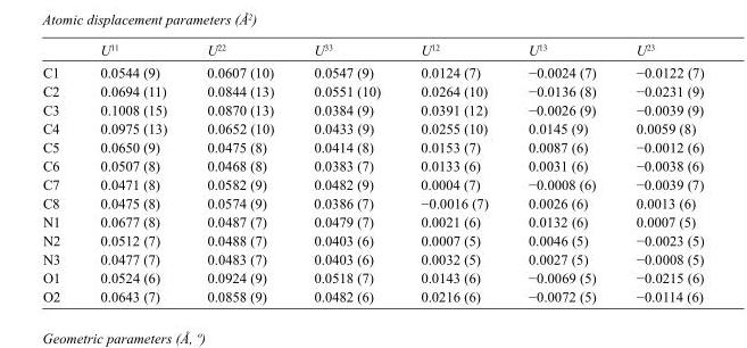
<table><thead><tr><td></td><td>U<sup>11</sup></td><td>U<sup>22</sup></td><td>U<sup>33</sup></td><td>U<sup>12</sup></td><td>U<sup>13</sup></td><td>U<sup>23</sup></td></tr></thead><tbody><tr><td>C1</td><td>0.0544 (9)</td><td>0.0607 (10)</td><td>0.0547 (9)</td><td>0.0124 (7)</td><td>−0.0024 (7)</td><td>−0.0122 (7)</td></tr><tr><td>C2</td><td>0.0694 (11)</td><td>0.0844 (13)</td><td>0.0551 (10)</td><td>0.0264 (10)</td><td>−0.0136 (8)</td><td>−0.0231 (9)</td></tr><tr><td>C3</td><td>0.1008 (15)</td><td>0.0870 (13)</td><td>0.0384 (9)</td><td>0.0391 (12)</td><td>−0.0026 (9)</td><td>−0.0039 (9)</td></tr><tr><td>C4</td><td>0.0975 (13)</td><td>0.0652 (10)</td><td>0.0433 (9)</td><td>0.0255 (10)</td><td>0.0145 (9)</td><td>0.0059 (8)</td></tr><tr><td>C5</td><td>0.0650 (9)</td><td>0.0475 (8)</td><td>0.0414 (8)</td><td>0.0153 (7)</td><td>0.0087 (6)</td><td>−0.0012 (6)</td></tr><tr><td>C6</td><td>0.0507 (8)</td><td>0.0468 (8)</td><td>0.0383 (7)</td><td>0.0133 (6)</td><td>0.0031 (6)</td><td>−0.0038 (6)</td></tr><tr><td>C7</td><td>0.0471 (8)</td><td>0.0582 (9)</td><td>0.0482 (9)</td><td>0.0004 (7)</td><td>−0.0008 (6)</td><td>−0.0039 (7)</td></tr><tr><td>C8</td><td>0.0475 (8)</td><td>0.0574 (9)</td><td>0.0386 (7)</td><td>−0.0016 (7)</td><td>0.0026 (6)</td><td>0.0013 (6)</td></tr><tr><td>N1</td><td>0.0677 (8)</td><td>0.0487 (7)</td><td>0.0479 (7)</td><td>0.0021 (6)</td><td>0.0132 (6)</td><td>0.0007 (5)</td></tr><tr><td>N2</td><td>0.0512 (7)</td><td>0.0488 (7)</td><td>0.0403 (6)</td><td>0.0007 (5)</td><td>0.0046 (5)</td><td>−0.0023 (5)</td></tr><tr><td>N3</td><td>0.0477 (7)</td><td>0.0483 (7)</td><td>0.0403 (6)</td><td>0.0032 (5)</td><td>0.0027 (5)</td><td>−0.0008 (5)</td></tr><tr><td>O1</td><td>0.0524 (6)</td><td>0.0924 (9)</td><td>0.0518 (7)</td><td>0.0143 (6)</td><td>−0.0069 (5)</td><td>−0.0215 (6)</td></tr><tr><td>O2</td><td>0.0643 (7)</td><td>0.0858 (9)</td><td>0.0482 (6)</td><td>0.0216 (6)</td><td>−0.0072 (5)</td><td>−0.0114 (6)</td></tr></tbody></table>